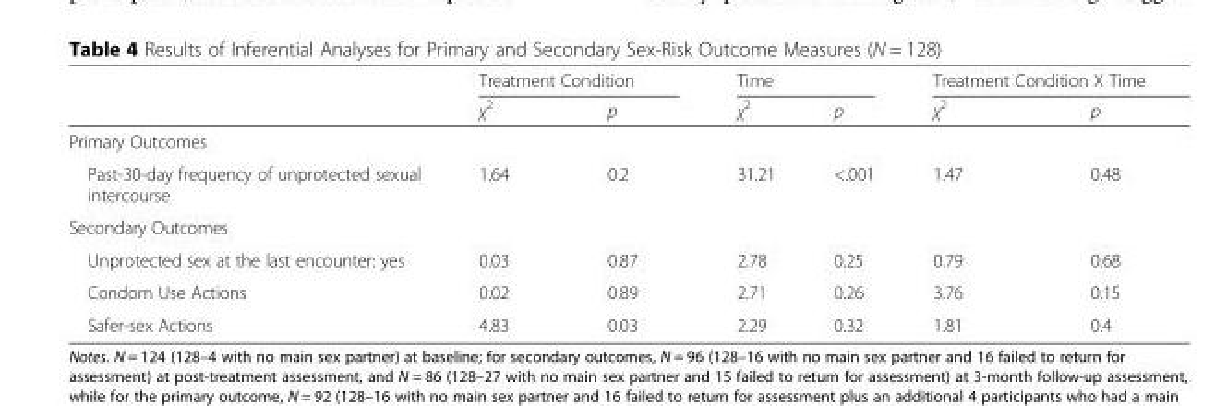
<table><thead><tr><td rowspan="2"></td><td colspan="2">Treatment Condition</td><td colspan="2">Time</td><td colspan="2">Treatment Condition X Time</td></tr><tr><td>χ<sup>2</sup></td><td>p</td><td>χ<sup>2</sup></td><td>p</td><td>χ<sup>2</sup></td><td>p</td></tr></thead><tbody><tr><td colspan="7">Primary Outcomes</td></tr><tr><td>Past-30-day frequency of unprotected sexual intercourse</td><td>1.64</td><td>0.2</td><td>31.21</td><td>&lt;.001</td><td>1.47</td><td>0.48</td></tr><tr><td colspan="7">Secondary Outcomes</td></tr><tr><td>Unprotected sex at the last encounter: yes</td><td>0.03</td><td>0.87</td><td>2.78</td><td>0.25</td><td>0.79</td><td>0.68</td></tr><tr><td>Condom Use Actions</td><td>0.02</td><td>0.89</td><td>2.71</td><td>0.26</td><td>3.76</td><td>0.15</td></tr><tr><td>Safer-sex Actions</td><td>4.83</td><td>0.03</td><td>2.29</td><td>0.32</td><td>1.81</td><td>0.4</td></tr></tbody></table>